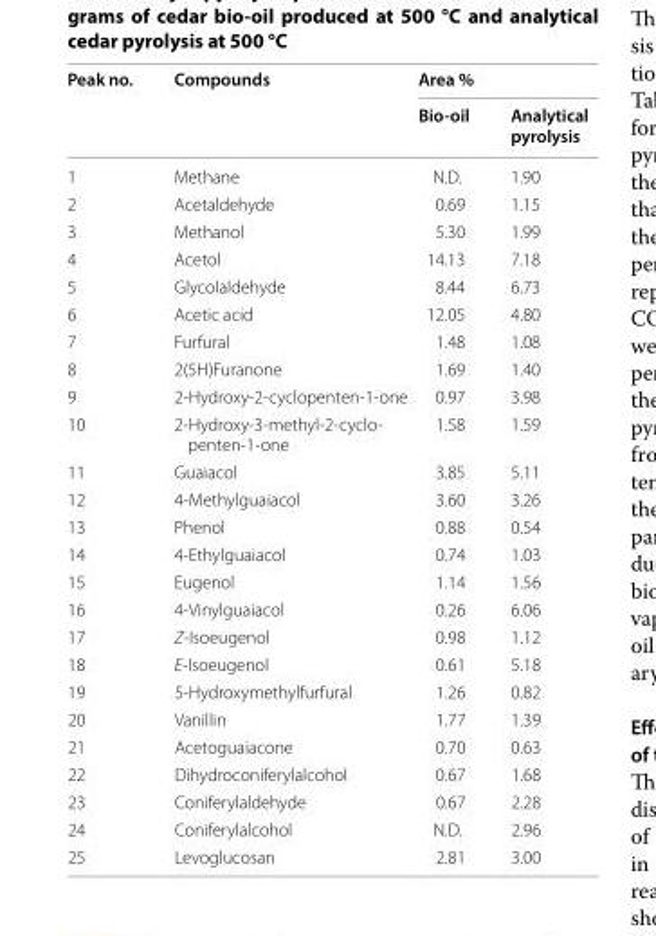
<table><thead><tr><td rowspan="2">Peak no.</td><td rowspan="2">Compounds</td><td colspan="2">Area %</td></tr><tr><td>Bio‑oil</td><td>Analytical pyrolysis</td></tr></thead><tbody><tr><td>1</td><td>Methane</td><td>N.D.</td><td>1.90</td></tr><tr><td>2</td><td>Acetaldehyde</td><td>0.69</td><td>1.15</td></tr><tr><td>3</td><td>Methanol</td><td>5.30</td><td>1.99</td></tr><tr><td>4</td><td>Acetol</td><td>14.13</td><td>7.18</td></tr><tr><td>5</td><td>Glycolaldehyde</td><td>8.44</td><td>6.73</td></tr><tr><td>6</td><td>Acetic acid</td><td>12.05</td><td>4.80</td></tr><tr><td>7</td><td>Furfural</td><td>1.48</td><td>1.08</td></tr><tr><td>8</td><td>2(5H)Furanone</td><td>1.69</td><td>1.40</td></tr><tr><td>9</td><td>2-Hydroxy-2-cyclopenten-1-one</td><td>0.97</td><td>3.98</td></tr><tr><td>10</td><td>2-Hydroxy-3-methyl-2-cyclo- penten-1-one</td><td>1.58</td><td>1.59</td></tr><tr><td>11</td><td>Guaiacol</td><td>3.85</td><td>5.11</td></tr><tr><td>12</td><td>4-Methylguaiacol</td><td>3.60</td><td>3.26</td></tr><tr><td>13</td><td>Phenol</td><td>0.88</td><td>0.54</td></tr><tr><td>14</td><td>4-Ethylguaiacol</td><td>0.74</td><td>1.03</td></tr><tr><td>15</td><td>Eugenol</td><td>1.14</td><td>1.56</td></tr><tr><td>16</td><td>4-Vinylguaiacol</td><td>0.26</td><td>6.06</td></tr><tr><td>17</td><td>Z-Isoeugenol</td><td>0.98</td><td>1.12</td></tr><tr><td>18</td><td>E-Isoeugenol</td><td>0.61</td><td>5.18</td></tr><tr><td>19</td><td>5-Hydroxymethylfurfural</td><td>1.26</td><td>0.82</td></tr><tr><td>20</td><td>Vanillin</td><td>1.77</td><td>1.39</td></tr><tr><td>21</td><td>Acetoguaiacone</td><td>0.70</td><td>0.63</td></tr><tr><td>22</td><td>Dihydroconiferylalcohol</td><td>0.67</td><td>1.68</td></tr><tr><td>23</td><td>Coniferylaldehyde</td><td>0.67</td><td>2.28</td></tr><tr><td>24</td><td>Coniferylalcohol</td><td>N.D.</td><td>2.96</td></tr><tr><td>25</td><td>Levoglucosan</td><td>2.81</td><td>3.00</td></tr></tbody></table>